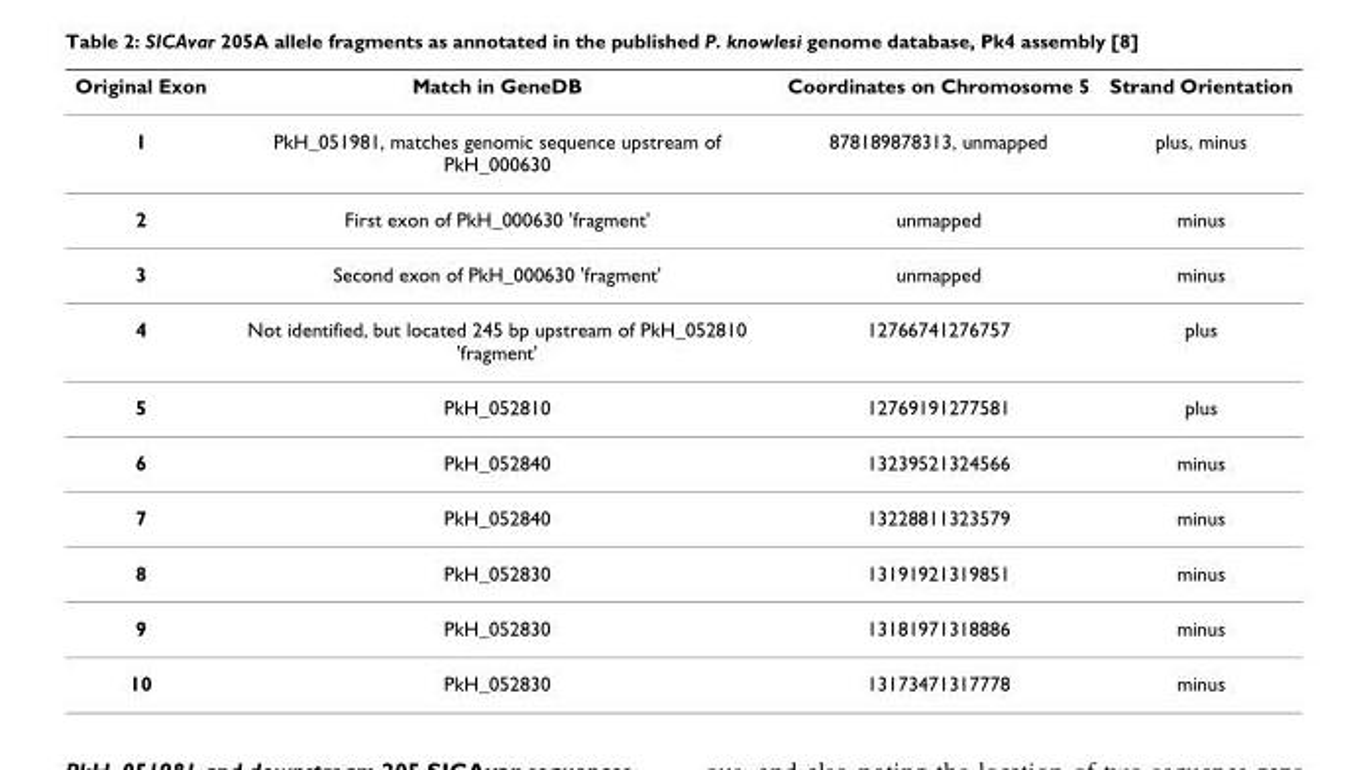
<table><thead><tr><td>Original Exon</td><td>Match in GeneDB</td><td>Coordinates on Chromosome 5</td><td>Strand Orientation</td></tr></thead><tbody><tr><td>1</td><td>PkH_051981, matches genomic sequence upstream of PkH_000630</td><td>878189878313, unmapped</td><td>plus, minus</td></tr><tr><td>2</td><td>First exon of PkH_000630 &#x27;fragment&#x27;</td><td>unmapped</td><td>minus</td></tr><tr><td>3</td><td>Second exon of PkH_000630 &#x27;fragment&#x27;</td><td>unmapped</td><td>minus</td></tr><tr><td>4</td><td>Not identified, but located 245 bp upstream of PkH_052810 &#x27;fragment&#x27;</td><td>12766741276757</td><td>plus</td></tr><tr><td>5</td><td>PkH_052810</td><td>12769191277581</td><td>plus</td></tr><tr><td>6</td><td>PkH_052840</td><td>13239521324566</td><td>minus</td></tr><tr><td>7</td><td>PkH_052840</td><td>13228811323579</td><td>minus</td></tr><tr><td>8</td><td>PkH_052830</td><td>13191921319851</td><td>minus</td></tr><tr><td>9</td><td>PkH_052830</td><td>13181971318886</td><td>minus</td></tr><tr><td>10</td><td>PkH_052830</td><td>13173471317778</td><td>minus</td></tr></tbody></table>